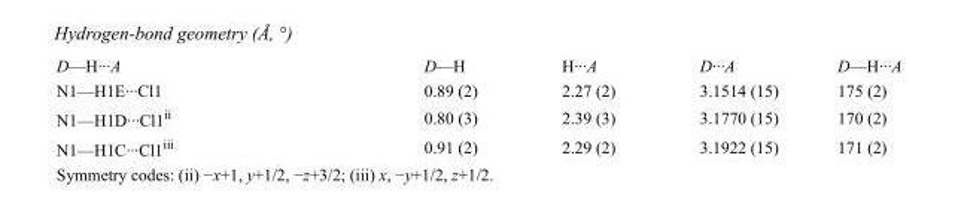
<table><tbody><tr><td>D—H···A</td><td>D—H</td><td>H···A</td><td>D···A</td><td>D—H···A</td></tr><tr><td>N1—H1E···Cl1</td><td>0.89 (2)</td><td>2.27 (2)</td><td>3.1514 (15)</td><td>175 (2)</td></tr><tr><td>N1—H1D···Cl1<sup>ii</sup></td><td>0.80 (3)</td><td>2.39 (3)</td><td>3.1770 (15)</td><td>170 (2)</td></tr><tr><td>N1—H1C···Cl1<sup>iii</sup></td><td>0.91 (2)</td><td>2.29 (2)</td><td>3.1922 (15)</td><td>171 (2)</td></tr></tbody></table>